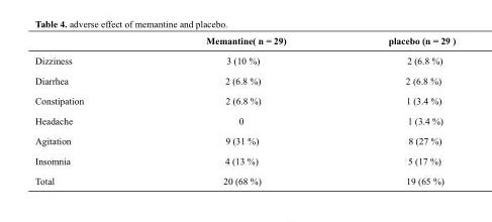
<table><thead><tr><td></td><td>Memantine( n = 29)</td><td>placebo (n = 29 )</td></tr></thead><tbody><tr><td>Dizziness</td><td>3 (10 %)</td><td>2 (6.8 %)</td></tr><tr><td>Diarrhea</td><td>2 (6.8 %)</td><td>2 (6.8 %)</td></tr><tr><td>Constipation</td><td>2 (6.8 %)</td><td>1 (3.4 %)</td></tr><tr><td>Headache</td><td>0</td><td>1 (3.4 %)</td></tr><tr><td>Agitation</td><td>9 (31 %)</td><td>8 (27 %)</td></tr><tr><td>Insomnia</td><td>4 (13 %)</td><td>5 (17 %)</td></tr><tr><td>Total</td><td>20 (68 %)</td><td>19 (65 %)</td></tr></tbody></table>